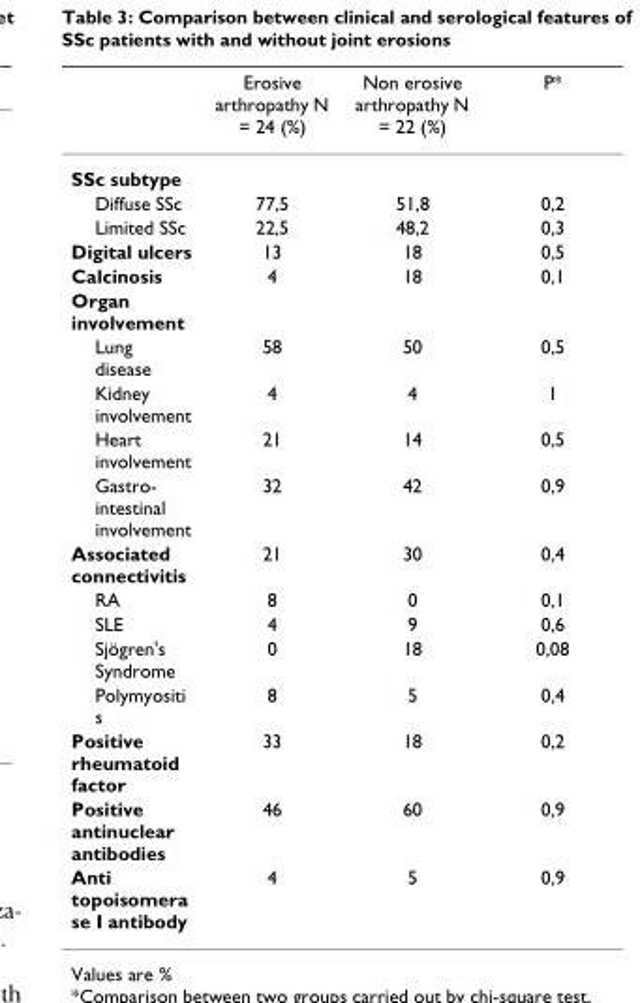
<table><thead><tr><td></td><td>Erosive arthropathy N = 24 (%)</td><td>Non erosive arthropathy N = 22 (%)</td><td>P*</td></tr></thead><tbody><tr><td colspan="4">SSc subtype</td></tr><tr><td>Diffuse SSc</td><td>77,5</td><td>51,8</td><td>0,2</td></tr><tr><td>Limited SSc</td><td>22,5</td><td>48,2</td><td>0,3</td></tr><tr><td>Digital ulcers</td><td>13</td><td>18</td><td>0,5</td></tr><tr><td>Calcinosis</td><td>4</td><td>18</td><td>0,1</td></tr><tr><td colspan="4">Organ involvement</td></tr><tr><td>Lung disease</td><td>58</td><td>50</td><td>0,5</td></tr><tr><td>Kidney involvement</td><td>4</td><td>4</td><td>1</td></tr><tr><td>Heart involvement</td><td>21</td><td>14</td><td>0,5</td></tr><tr><td>Gastro- intestinal involvement</td><td>32</td><td>42</td><td>0,9</td></tr><tr><td>Associated connectivitis</td><td>21</td><td>30</td><td>0,4</td></tr><tr><td>RA</td><td>8</td><td>0</td><td>0,1</td></tr><tr><td>SLE</td><td>4</td><td>9</td><td>0,6</td></tr><tr><td>Sjögren&#x27;s Syndrome</td><td>0</td><td>18</td><td>0,08</td></tr><tr><td>Polymyositi s</td><td>8</td><td>5</td><td>0,4</td></tr><tr><td>Positive rheumatoid factor</td><td>33</td><td>18</td><td>0,2</td></tr><tr><td>Positive antinuclear antibodies</td><td>46</td><td>60</td><td>0,9</td></tr><tr><td>Anti topoisomera se I antibody</td><td>4</td><td>5</td><td>0,9</td></tr></tbody></table>